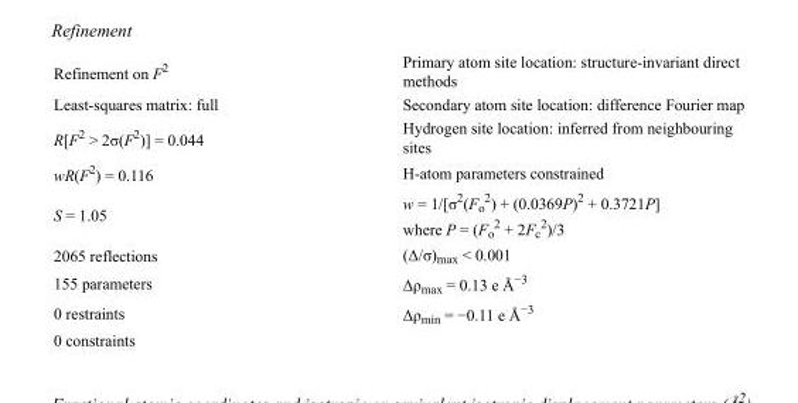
<table><tbody><tr><td>Refinement on F<sup>2</sup></td><td>Primary atom site location: structure-invariant direct methods</td></tr><tr><td>Least-squares matrix: full</td><td>Secondary atom site location: difference Fourier map</td></tr><tr><td>R[F<sup>2</sup> &gt; 2σ(F<sup>2</sup>)] = 0.044</td><td>Hydrogen site location: inferred from neighbouring sites</td></tr><tr><td>wR(F<sup>2</sup>) = 0.116</td><td>H-atom parameters constrained</td></tr><tr><td>S = 1.05</td><td>w = 1/[σ<sup>2</sup>(F<sub>o</sub> <sup>2</sup>) + (0.0369P)<sup>2</sup> + 0.3721P] where P = (F<sub>o</sub> <sup>2</sup> + 2F<sub>c</sub> <sup>2</sup>)/3</td></tr><tr><td>2065 reflections</td><td>(Δ/σ)<sub>max</sub> &lt; 0.001</td></tr><tr><td>155 parameters</td><td>Δρ<sub>max</sub> = 0.13 e Å<sup>−3</sup></td></tr><tr><td>0 restraints</td><td>Δρ<sub>min</sub> = −0.11 e Å<sup>−3</sup></td></tr><tr><td>0 constraints</td><td></td></tr></tbody></table>